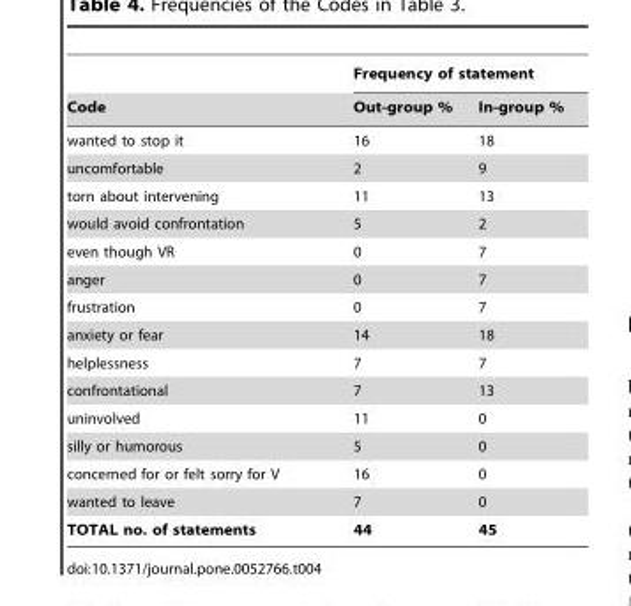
<table><thead><tr><td rowspan="2">Code</td><td colspan="2">Frequency of statement</td></tr><tr><td>Out-group %</td><td>In-group %</td></tr></thead><tbody><tr><td>wanted to stop it</td><td>16</td><td>18</td></tr><tr><td>uncomfortable</td><td>2</td><td>9</td></tr><tr><td>torn about intervening</td><td>11</td><td>13</td></tr><tr><td>would avoid confrontation</td><td>5</td><td>2</td></tr><tr><td>even though VR</td><td>0</td><td>7</td></tr><tr><td>anger</td><td>0</td><td>7</td></tr><tr><td>frustration</td><td>0</td><td>7</td></tr><tr><td>anxiety or fear</td><td>14</td><td>18</td></tr><tr><td>helplessness</td><td>7</td><td>7</td></tr><tr><td>confrontational</td><td>7</td><td>13</td></tr><tr><td>uninvolved</td><td>11</td><td>0</td></tr><tr><td>silly or humorous</td><td>5</td><td>0</td></tr><tr><td>concerned for or felt sorry for V</td><td>16</td><td>0</td></tr><tr><td>wanted to leave</td><td>7</td><td>0</td></tr><tr><td>TOTAL no. of statements</td><td>44</td><td>45</td></tr></tbody></table>